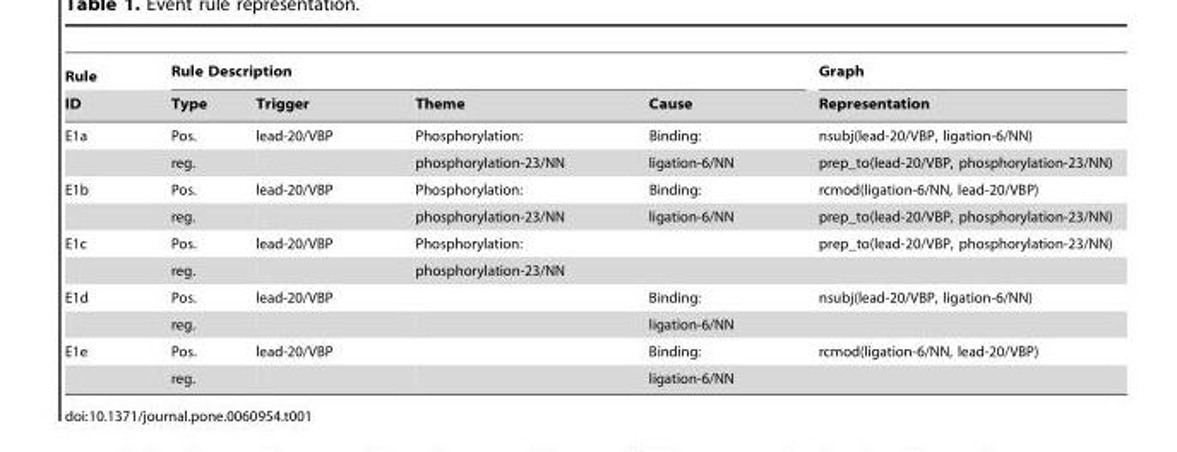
<table><thead><tr><td rowspan="2">Rule ID</td><td colspan="4">Rule Description</td><td rowspan="2">Graph Representation</td></tr><tr><td>Type</td><td>Trigger</td><td>Theme</td><td>Cause</td></tr></thead><tbody><tr><td rowspan="2">E1a</td><td>Pos.</td><td>lead-20/VBP</td><td>Phosphorylation:</td><td>Binding:</td><td>nsubj(lead-20/VBP, ligation-6/NN)</td></tr><tr><td>reg.</td><td></td><td>phosphorylation-23/NN</td><td>ligation-6/NN</td><td>prep_to(lead-20/VBP, phosphorylation-23/NN)</td></tr><tr><td rowspan="2">E1b</td><td>Pos.</td><td>lead-20/VBP</td><td>Phosphorylation:</td><td>Binding:</td><td>rcmod(ligation-6/NN, lead-20/VBP)</td></tr><tr><td>reg.</td><td></td><td>phosphorylation-23/NN</td><td>ligation-6/NN</td><td>prep_to(lead-20/VBP, phosphorylation-23/NN)</td></tr><tr><td rowspan="2">E1c</td><td>Pos.</td><td>lead-20/VBP</td><td>Phosphorylation:</td><td></td><td>prep_to(lead-20/VBP, phosphorylation-23/NN)</td></tr><tr><td>reg.</td><td></td><td>phosphorylation-23/NN</td><td></td><td></td></tr><tr><td rowspan="2">E1d</td><td>Pos.</td><td>lead-20/VBP</td><td></td><td>Binding:</td><td>nsubj(lead-20/VBP, ligation-6/NN)</td></tr><tr><td>reg.</td><td></td><td></td><td>ligation-6/NN</td><td></td></tr><tr><td rowspan="2">E1e</td><td>Pos.</td><td>lead-20/VBP</td><td></td><td>Binding:</td><td>rcmod(ligation-6/NN, lead-20/VBP)</td></tr><tr><td>reg.</td><td></td><td></td><td>ligation-6/NN</td><td></td></tr></tbody></table>